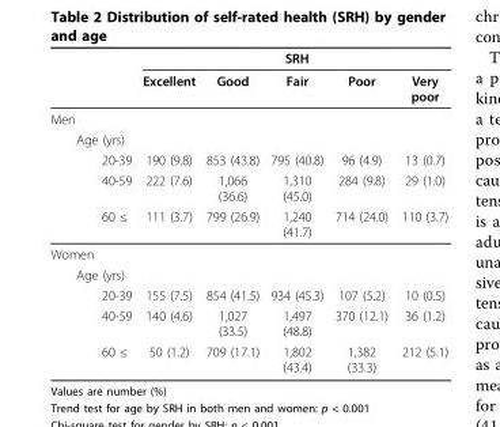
<table><thead><tr><td rowspan="2"></td><td colspan="5">SRH</td></tr><tr><td>Excellent</td><td>Good</td><td>Fair</td><td>Poor</td><td>Very poor</td></tr></thead><tbody><tr><td colspan="6">Men</td></tr><tr><td colspan="6">Age (yrs)</td></tr><tr><td>20-39</td><td>190 (9.8)</td><td>853 (43.8)</td><td>795 (40.8)</td><td>96 (4.9)</td><td>13 (0.7)</td></tr><tr><td>40-59</td><td>222 (7.6)</td><td>1,066 (36.6)</td><td>1,310 (45.0)</td><td>284 (9.8)</td><td>29 (1.0)</td></tr><tr><td>60 ≤</td><td>111 (3.7)</td><td>799 (26.9)</td><td>1,240 (41.7)</td><td>714 (24.0)</td><td>110 (3.7)</td></tr><tr><td colspan="6">Women</td></tr><tr><td colspan="6">Age (yrs)</td></tr><tr><td>20-39</td><td>155 (7.5)</td><td>854 (41.5)</td><td>934 (45.3)</td><td>107 (5.2)</td><td>10 (0.5)</td></tr><tr><td>40-59</td><td>140 (4.6)</td><td>1,027 (33.5)</td><td>1,497 (48.8)</td><td>370 (12.1)</td><td>36 (1.2)</td></tr><tr><td>60 ≤</td><td>50 (1.2)</td><td>709 (17.1)</td><td>1,802 (43.4)</td><td>1,382 (33.3)</td><td>212 (5.1)</td></tr></tbody></table>